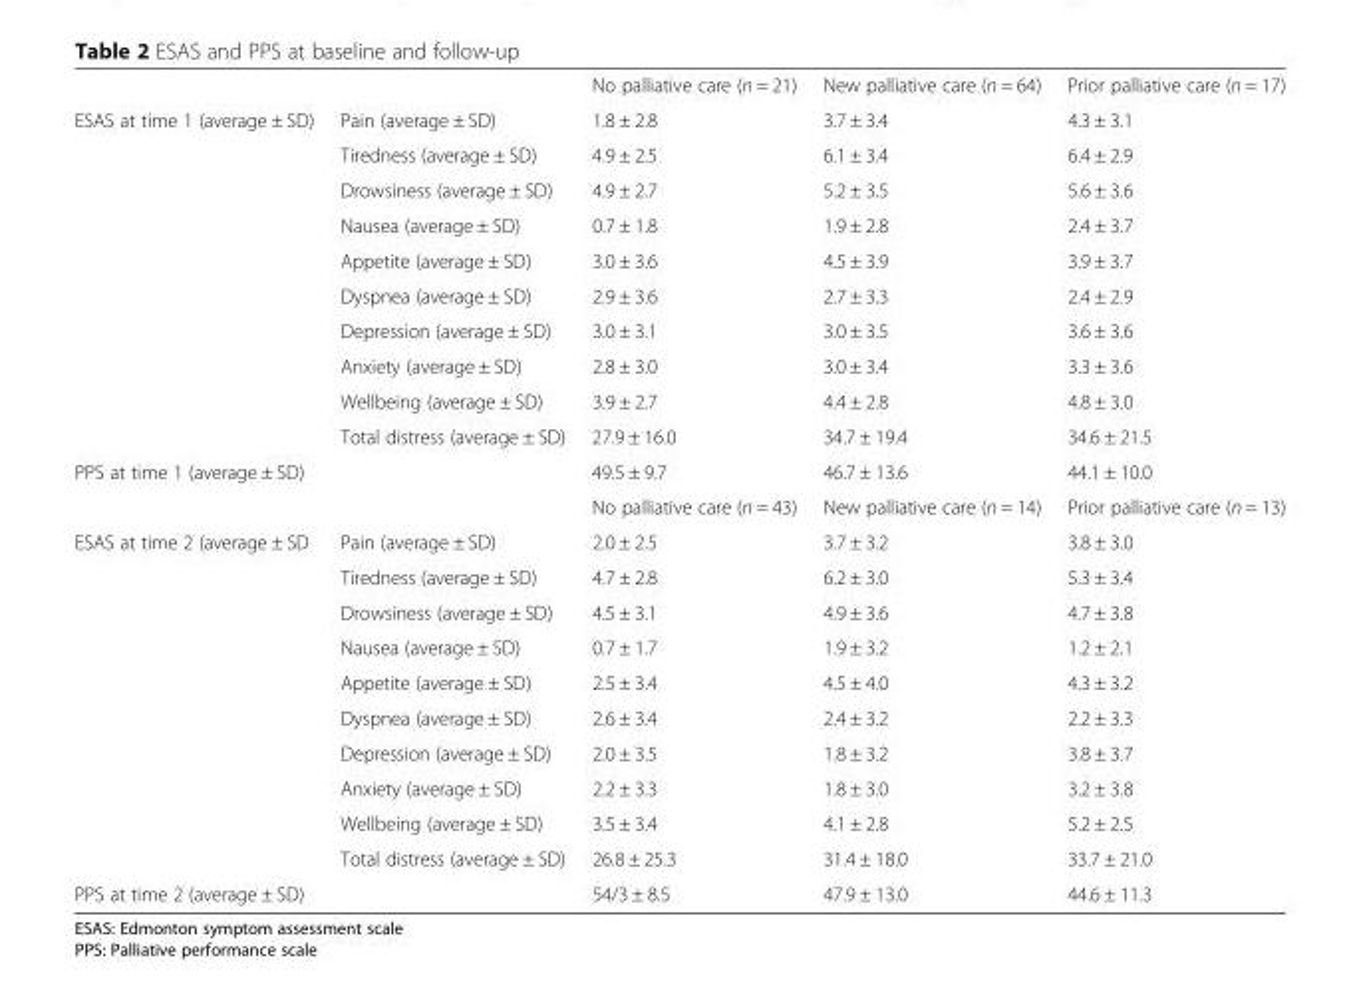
<table><thead><tr><td></td><td></td><td>No palliative care (n = 21)</td><td>New palliative care (n = 64)</td><td>Prior palliative care (n = 17)</td></tr></thead><tbody><tr><td rowspan="10">ESAS at time 1 (average ± SD)</td><td>Pain (average ± SD)</td><td>1.8 ± 2.8</td><td>3.7 ± 3.4</td><td>4.3 ± 3.1</td></tr><tr><td>Tiredness (average ± SD)</td><td>4.9 ± 2.5</td><td>6.1 ± 3.4</td><td>6.4 ± 2.9</td></tr><tr><td>Drowsiness (average ± SD)</td><td>4.9 ± 2.7</td><td>5.2 ± 3.5</td><td>5.6 ± 3.6</td></tr><tr><td>Nausea (average ± SD)</td><td>0.7 ± 1.8</td><td>1.9 ± 2.8</td><td>2.4 ± 3.7</td></tr><tr><td>Appetite (average ± SD)</td><td>3.0 ± 3.6</td><td>4.5 ± 3.9</td><td>3.9 ± 3.7</td></tr><tr><td>Dyspnea (average ± SD)</td><td>2.9 ± 3.6</td><td>2.7 ± 3.3</td><td>2.4 ± 2.9</td></tr><tr><td>Depression (average ± SD)</td><td>3.0 ± 3.1</td><td>3.0 ± 3.5</td><td>3.6 ± 3.6</td></tr><tr><td>Anxiety (average ± SD)</td><td>2.8 ± 3.0</td><td>3.0 ± 3.4</td><td>3.3 ± 3.6</td></tr><tr><td>Wellbeing (average ± SD)</td><td>3.9 ± 2.7</td><td>4.4 ± 2.8</td><td>4.8 ± 3.0</td></tr><tr><td>Total distress (average ± SD)</td><td>27.9 ± 16.0</td><td>34.7 ± 19.4</td><td>34.6 ± 21.5</td></tr><tr><td colspan="2">PPS at time 1 (average ± SD)</td><td>49.5 ± 9.7</td><td>46.7 ± 13.6</td><td>44.1 ± 10.0</td></tr><tr><td></td><td></td><td>No palliative care (n = 43)</td><td>New palliative care (n = 14)</td><td>Prior palliative care (n = 13)</td></tr><tr><td rowspan="10">ESAS at time 2 (average ± SD</td><td>Pain (average ± SD)</td><td>2.0 ± 2.5</td><td>3.7 ± 3.2</td><td>3.8 ± 3.0</td></tr><tr><td>Tiredness (average ± SD)</td><td>4.7 ± 2.8</td><td>6.2 ± 3.0</td><td>5.3 ± 3.4</td></tr><tr><td>Drowsiness (average ± SD)</td><td>4.5 ± 3.1</td><td>4.9 ± 3.6</td><td>4.7 ± 3.8</td></tr><tr><td>Nausea (average ± SD)</td><td>0.7 ± 1.7</td><td>1.9 ± 3.2</td><td>1.2 ± 2.1</td></tr><tr><td>Appetite (average ± SD)</td><td>2.5 ± 3.4</td><td>4.5 ± 4.0</td><td>4.3 ± 3.2</td></tr><tr><td>Dyspnea (average ± SD)</td><td>2.6 ± 3.4</td><td>2.4 ± 3.2</td><td>2.2 ± 3.3</td></tr><tr><td>Depression (average ± SD)</td><td>2.0 ± 3.5</td><td>1.8 ± 3.2</td><td>3.8 ± 3.7</td></tr><tr><td>Anxiety (average ± SD)</td><td>2.2 ± 3.3</td><td>1.8 ± 3.0</td><td>3.2 ± 3.8</td></tr><tr><td>Wellbeing (average ± SD)</td><td>3.5 ± 3.4</td><td>4.1 ± 2.8</td><td>5.2 ± 2.5</td></tr><tr><td>Total distress (average ± SD)</td><td>26.8 ± 25.3</td><td>31.4 ± 18.0</td><td>33.7 ± 21.0</td></tr><tr><td colspan="2">PPS at time 2 (average ± SD)</td><td>54/3 ± 8.5</td><td>47.9 ± 13.0</td><td>44.6 ± 11.3</td></tr></tbody></table>